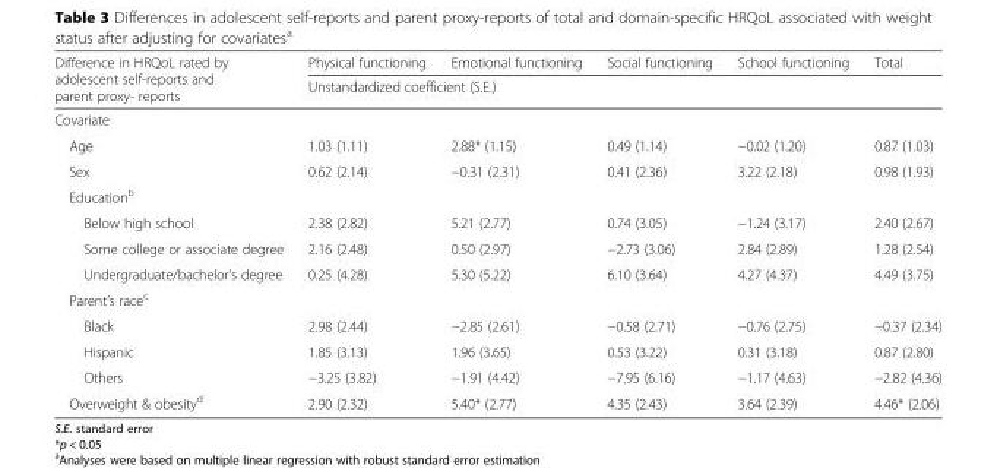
<table><thead><tr><td rowspan="2">Difference in HRQoL rated by adolescent self-reports and parent proxy- reports</td><td>Physical functioning</td><td>Emotional functioning</td><td>Social functioning</td><td>School functioning</td><td>Total</td></tr><tr><td colspan="5">Unstandardized coefficient (S.E.)</td></tr></thead><tbody><tr><td colspan="6">Covariate</td></tr><tr><td>Age</td><td>1.03 (1.11)</td><td>2.88* (1.15)</td><td>0.49 (1.14)</td><td>−0.02 (1.20)</td><td>0.87 (1.03)</td></tr><tr><td>Sex</td><td>0.62 (2.14)</td><td>−0.31 (2.31)</td><td>0.41 (2.36)</td><td>3.22 (2.18)</td><td>0.98 (1.93)</td></tr><tr><td colspan="6">Education<sup>b</sup></td></tr><tr><td>Below high school</td><td>2.38 (2.82)</td><td>5.21 (2.77)</td><td>0.74 (3.05)</td><td>−1.24 (3.17)</td><td>2.40 (2.67)</td></tr><tr><td>Some college or associate degree</td><td>2.16 (2.48)</td><td>0.50 (2.97)</td><td>−2.73 (3.06)</td><td>2.84 (2.89)</td><td>1.28 (2.54)</td></tr><tr><td>Undergraduate/bachelor’s degree</td><td>0.25 (4.28)</td><td>5.30 (5.22)</td><td>6.10 (3.64)</td><td>4.27 (4.37)</td><td>4.49 (3.75)</td></tr><tr><td colspan="6">Parent’s race<sup>c</sup></td></tr><tr><td>Black</td><td>2.98 (2.44)</td><td>−2.85 (2.61)</td><td>−0.58 (2.71)</td><td>−0.76 (2.75)</td><td>−0.37 (2.34)</td></tr><tr><td>Hispanic</td><td>1.85 (3.13)</td><td>1.96 (3.65)</td><td>0.53 (3.22)</td><td>0.31 (3.18)</td><td>0.87 (2.80)</td></tr><tr><td>Others</td><td>−3.25 (3.82)</td><td>−1.91 (4.42)</td><td>−7.95 (6.16)</td><td>−1.17 (4.63)</td><td>−2.82 (4.36)</td></tr><tr><td>Overweight &amp; obesity<sup>d</sup></td><td>2.90 (2.32)</td><td>5.40* (2.77)</td><td>4.35 (2.43)</td><td>3.64 (2.39)</td><td>4.46* (2.06)</td></tr></tbody></table>